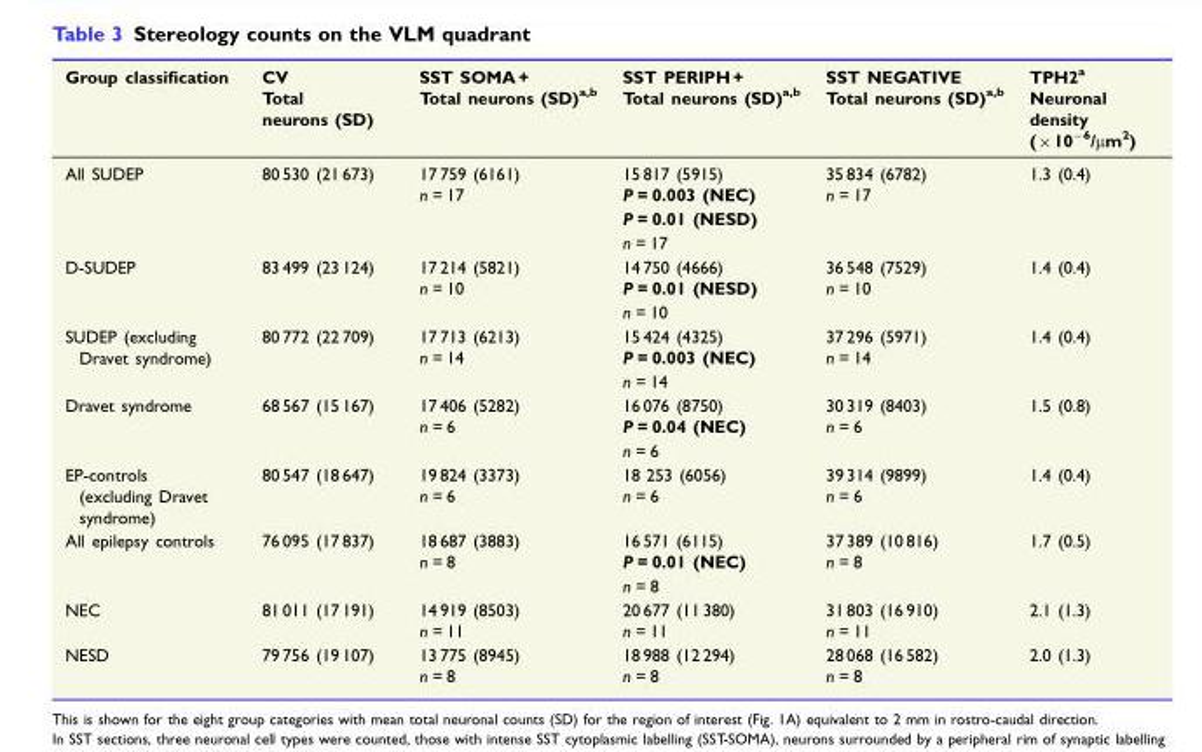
<table><thead><tr><td rowspan="2">Group classification</td><td rowspan="2">CV Total neurons (SD)</td><td rowspan="2">SST SOMA + Total neurons (SD)<sup>a,b</sup></td><td rowspan="2">SST PERIPH + Total neurons (SD)<sup>a,b</sup></td><td rowspan="2">SST NEGATIVE Total neurons (SD)<sup>a,b</sup></td><td rowspan="2">TPH2<sup>a</sup> Neuronal density (×10<sup>−6</sup>/µm<sup>2</sup>)</td></tr><tr></tr></thead><tbody><tr><td rowspan="4">All SUDEP</td><td rowspan="4">80 530 (21 673)</td><td>17 759 (6161)</td><td>15 817 (5915)</td><td>35 834 (6782)</td><td rowspan="4">1.3 (0.4)</td></tr><tr><td>n = 17</td><td>P = 0.003 (NEC)</td><td>n = 17</td></tr><tr><td></td><td>P = 0.01 (NESD)</td><td></td></tr><tr><td></td><td>n = 17</td><td></td></tr><tr><td rowspan="3">D-SUDEP</td><td rowspan="3">83 499 (23 124)</td><td>17 214 (5821)</td><td>14 750 (4666)</td><td>36 548 (7529)</td><td rowspan="3">1.4 (0.4)</td></tr><tr><td>n = 10</td><td>P = 0.01 (NESD)</td><td>n = 10</td></tr><tr><td></td><td>n = 10</td><td></td></tr><tr><td rowspan="3">SUDEP (excluding Dravet syndrome)</td><td rowspan="3">80 772 (22 709)</td><td>17 713 (6213)</td><td>15 424 (4325)</td><td>37 296 (5971)</td><td rowspan="3">1.4 (0.4)</td></tr><tr><td>n = 14</td><td>P = 0.003 (NEC)</td><td>n = 14</td></tr><tr><td></td><td>n = 14</td><td></td></tr><tr><td rowspan="3">Dravet syndrome</td><td rowspan="3">68 567 (15 167)</td><td>17 406 (5282)</td><td>16 076 (8750)</td><td>30 319 (8403)</td><td rowspan="3">1.5 (0.8)</td></tr><tr><td>n = 6</td><td>P = 0.04 (NEC)</td><td>n = 6</td></tr><tr><td></td><td>n = 6</td><td></td></tr><tr><td rowspan="2">EP-controls (excluding Dravet syndrome)</td><td rowspan="2">80 547 (18 647)</td><td>19 824 (3373)</td><td>18 253 (6056)</td><td>39 314 (9899)</td><td rowspan="2">1.4 (0.4)</td></tr><tr><td>n = 6</td><td>n = 6</td><td>n = 6</td></tr><tr><td rowspan="3">All epilepsy controls</td><td rowspan="3">76 095 (17 837)</td><td>18 687 (3883)</td><td>16 571 (6115)</td><td>37 389 (10 816)</td><td rowspan="3">1.7 (0.5)</td></tr><tr><td>n = 8</td><td>P = 0.01 (NEC)</td><td>n = 8</td></tr><tr><td></td><td>n = 8</td><td></td></tr><tr><td rowspan="2">NEC</td><td rowspan="2">81 011 (17 191)</td><td>14 919 (8503)</td><td>20 677 (11 380)</td><td>31 803 (16 910)</td><td rowspan="2">2.1 (1.3)</td></tr><tr><td>n = 11</td><td>n = 11</td><td>n = 11</td></tr><tr><td rowspan="2">NESD</td><td rowspan="2">79 756 (19 107)</td><td>13 775 (8945)</td><td>18 988 (12 294)</td><td>28 068 (16 582)</td><td rowspan="2">2.0 (1.3)</td></tr><tr><td>n = 8</td><td>n = 8</td><td>n = 8</td></tr></tbody></table>